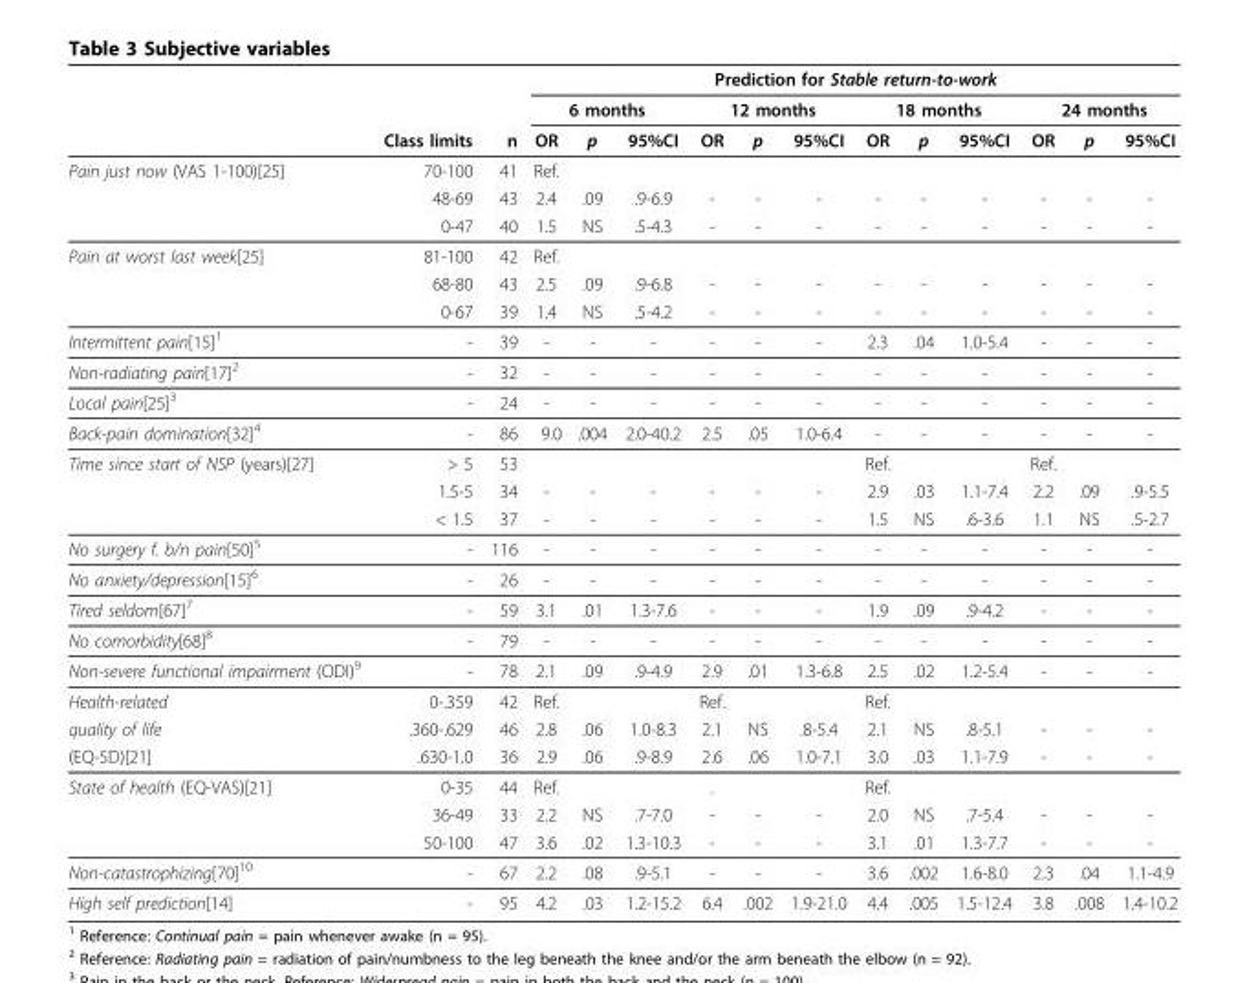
<table><thead><tr><td rowspan="3"></td><td rowspan="3">Class limits</td><td rowspan="3">n</td><td colspan="12">Prediction for Stable return-to-work</td></tr><tr><td colspan="3">6 months</td><td colspan="3">12 months</td><td colspan="3">18 months</td><td colspan="3">24 months</td></tr><tr><td>OR</td><td>p</td><td>95%CI</td><td>OR</td><td>p</td><td>95%CI</td><td>OR</td><td>p</td><td>95%CI</td><td>OR</td><td>p</td><td>95%CI</td></tr></thead><tbody><tr><td rowspan="3">Pain just now (VAS 1-100)[25]</td><td>70-100</td><td>41</td><td>Ref.</td><td></td><td></td><td></td><td></td><td></td><td></td><td></td><td></td><td></td><td></td><td></td></tr><tr><td>48-69</td><td>43</td><td>2.4</td><td>.09</td><td>.9-6.9</td><td>-</td><td>-</td><td>-</td><td>-</td><td>-</td><td>-</td><td>-</td><td>-</td><td>-</td></tr><tr><td>0-47</td><td>40</td><td>1.5</td><td>NS</td><td>.5-4.3</td><td>-</td><td>-</td><td>-</td><td>-</td><td>-</td><td>-</td><td>-</td><td>-</td><td>-</td></tr><tr><td rowspan="3">Pain at worst last week[25]</td><td>81-100</td><td>42</td><td>Ref.</td><td></td><td></td><td></td><td></td><td></td><td></td><td></td><td></td><td></td><td></td><td></td></tr><tr><td>68-80</td><td>43</td><td>2.5</td><td>.09</td><td>.9-6.8</td><td>-</td><td>-</td><td>-</td><td>-</td><td>-</td><td>-</td><td>-</td><td>-</td><td>-</td></tr><tr><td>0-67</td><td>39</td><td>1.4</td><td>NS</td><td>.5-4.2</td><td>-</td><td>-</td><td>-</td><td>-</td><td>-</td><td>-</td><td>-</td><td>-</td><td>-</td></tr><tr><td>Intermittent pain[15]<sup>1</sup></td><td>-</td><td>39</td><td>-</td><td>-</td><td>-</td><td>-</td><td>-</td><td>-</td><td>2.3</td><td>.04</td><td>1.0-5.4</td><td>-</td><td>-</td><td>-</td></tr><tr><td>Non-radiating pain[17]<sup>2</sup></td><td>-</td><td>32</td><td>-</td><td>-</td><td>-</td><td>-</td><td>-</td><td>-</td><td>-</td><td>-</td><td>-</td><td>-</td><td>-</td><td>-</td></tr><tr><td>Local pain[25]<sup>3</sup></td><td>-</td><td>24</td><td>-</td><td>-</td><td>-</td><td>-</td><td>-</td><td>-</td><td>-</td><td>-</td><td>-</td><td>-</td><td>-</td><td>-</td></tr><tr><td>Back-pain domination[32]<sup>4</sup></td><td>-</td><td>86</td><td>9.0</td><td>.004</td><td>2.0-40.2</td><td>2.5</td><td>.05</td><td>1.0-6.4</td><td>-</td><td>-</td><td>-</td><td>-</td><td>-</td><td>-</td></tr><tr><td rowspan="3">Time since start of NSP (years)[27]</td><td>&gt; 5</td><td>53</td><td></td><td></td><td></td><td></td><td></td><td></td><td>Ref.</td><td></td><td></td><td>Ref.</td><td></td><td></td></tr><tr><td>1.5-5</td><td>34</td><td>-</td><td>-</td><td>-</td><td>-</td><td>-</td><td>-</td><td>2.9</td><td>.03</td><td>1.1-7.4</td><td>2.2</td><td>.09</td><td>.9-5.5</td></tr><tr><td>&lt; 1.5</td><td>37</td><td>-</td><td>-</td><td>-</td><td>-</td><td>-</td><td>-</td><td>1.5</td><td>NS</td><td>.6-3.6</td><td>1.1</td><td>NS</td><td>.5-2.7</td></tr><tr><td>No surgery f. b/n pain[50]<sup>5</sup></td><td>-</td><td>116</td><td>-</td><td>-</td><td>-</td><td>-</td><td>-</td><td>-</td><td>-</td><td>-</td><td>-</td><td>-</td><td>-</td><td>-</td></tr><tr><td>No anxiety/depression[15]<sup>6</sup></td><td>-</td><td>26</td><td>-</td><td>-</td><td>-</td><td>-</td><td>-</td><td>-</td><td>-</td><td>-</td><td>-</td><td>-</td><td>-</td><td>-</td></tr><tr><td>Tired seldom[67]<sup>7</sup></td><td>-</td><td>59</td><td>3.1</td><td>.01</td><td>1.3-7.6</td><td>-</td><td>-</td><td>-</td><td>1.9</td><td>.09</td><td>.9-4.2</td><td>-</td><td>-</td><td>-</td></tr><tr><td>No comorbidity[68]<sup>8</sup></td><td>-</td><td>79</td><td>-</td><td>-</td><td>-</td><td>-</td><td>-</td><td>-</td><td>-</td><td>-</td><td>-</td><td>-</td><td>-</td><td>-</td></tr><tr><td>Non-severe functional impairment (ODI)<sup>9</sup></td><td>-</td><td>78</td><td>2.1</td><td>.09</td><td>.9-4.9</td><td>2.9</td><td>.01</td><td>1.3-6.8</td><td>2.5</td><td>.02</td><td>1.2-5.4</td><td>-</td><td>-</td><td>-</td></tr><tr><td>Health-related</td><td>0-.359</td><td>42</td><td>Ref.</td><td></td><td></td><td>Ref.</td><td></td><td></td><td>Ref.</td><td></td><td></td><td></td><td></td><td></td></tr><tr><td>quality of life</td><td>.360-.629</td><td>46</td><td>2.8</td><td>.06</td><td>1.0-8.3</td><td>2.1</td><td>NS</td><td>.8-5.4</td><td>2.1</td><td>NS</td><td>.8-5.1</td><td>-</td><td>-</td><td>-</td></tr><tr><td>(EQ-5D)[21]</td><td>.630-1.0</td><td>36</td><td>2.9</td><td>.06</td><td>.9-8.9</td><td>2.6</td><td>.06</td><td>1.0-7.1</td><td>3.0</td><td>.03</td><td>1.1-7.9</td><td>-</td><td>-</td><td>-</td></tr><tr><td rowspan="3">State of health (EQ-VAS)[21]</td><td>0-35</td><td>44</td><td>Ref.</td><td></td><td></td><td>.</td><td></td><td></td><td>Ref.</td><td></td><td></td><td></td><td></td><td></td></tr><tr><td>36-49</td><td>33</td><td>2.2</td><td>NS</td><td>.7-7.0</td><td>-</td><td>-</td><td>-</td><td>2.0</td><td>NS</td><td>.7-5.4</td><td>-</td><td>-</td><td>-</td></tr><tr><td>50-100</td><td>47</td><td>3.6</td><td>.02</td><td>1.3-10.3</td><td>-</td><td>-</td><td>-</td><td>3.1</td><td>.01</td><td>1.3-7.7</td><td>-</td><td>-</td><td>-</td></tr><tr><td>Non-catastrophizing[70]<sup>10</sup></td><td>-</td><td>67</td><td>2.2</td><td>.08</td><td>.9-5.1</td><td>-</td><td>-</td><td>-</td><td>3.6</td><td>.002</td><td>1.6-8.0</td><td>2.3</td><td>.04</td><td>1.1-4.9</td></tr><tr><td>High self prediction[14]</td><td>-</td><td>95</td><td>4.2</td><td>.03</td><td>1.2-15.2</td><td>6.4</td><td>.002</td><td>1.9-21.0</td><td>4.4</td><td>.005</td><td>1.5-12.4</td><td>3.8</td><td>.008</td><td>1.4-10.2</td></tr></tbody></table>